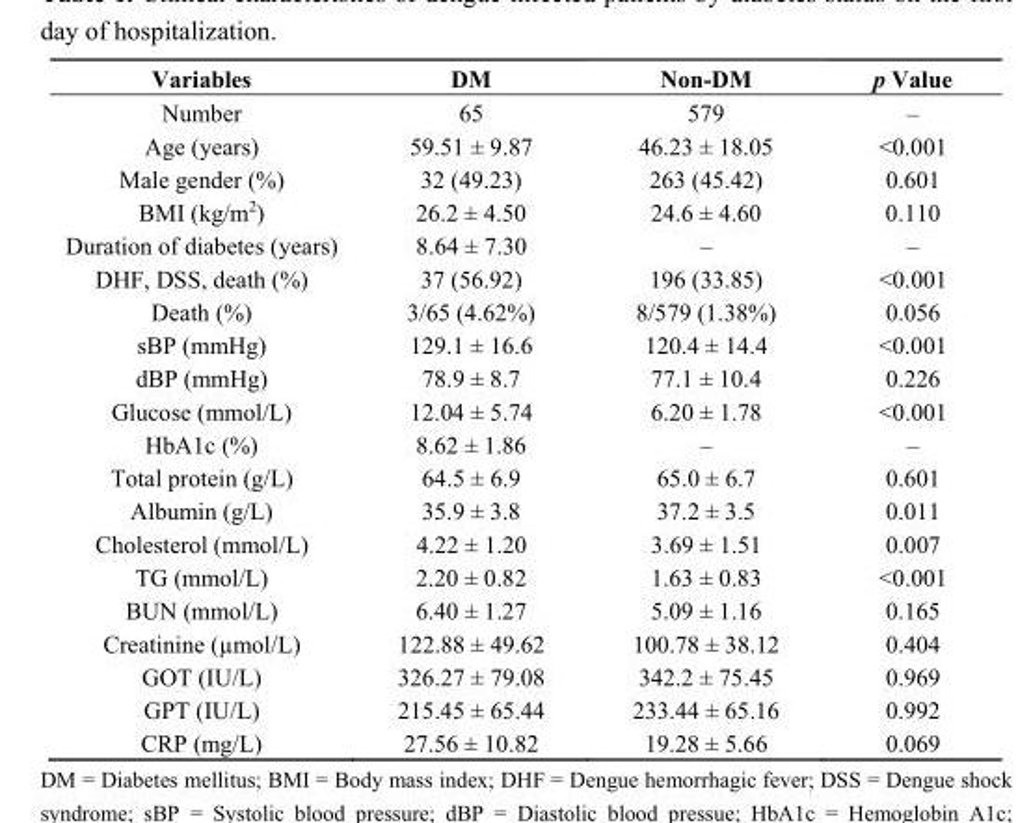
<table><thead><tr><td>Variables</td><td>DM</td><td>Non-DM</td><td>p Value</td></tr></thead><tbody><tr><td>Number</td><td>65</td><td>579</td><td>–</td></tr><tr><td>Age (years)</td><td>59.51 ± 9.87</td><td>46.23 ± 18.05</td><td>&lt;0.001</td></tr><tr><td>Male gender (%)</td><td>32 (49.23)</td><td>263 (45.42)</td><td>0.601</td></tr><tr><td>BMI (kg/m<sup>2</sup>)</td><td>26.2 ± 4.50</td><td>24.6 ± 4.60</td><td>0.110</td></tr><tr><td>Duration of diabetes (years)</td><td>8.64 ± 7.30</td><td>–</td><td>–</td></tr><tr><td>DHF, DSS, death (%)</td><td>37 (56.92)</td><td>196 (33.85)</td><td>&lt;0.001</td></tr><tr><td>Death (%)</td><td>3/65 (4.62%)</td><td>8/579 (1.38%)</td><td>0.056</td></tr><tr><td>sBP (mmHg)</td><td>129.1 ± 16.6</td><td>120.4 ± 14.4</td><td>&lt;0.001</td></tr><tr><td>dBP (mmHg)</td><td>78.9 ± 8.7</td><td>77.1 ± 10.4</td><td>0.226</td></tr><tr><td>Glucose (mmol/L)</td><td>12.04 ± 5.74</td><td>6.20 ± 1.78</td><td>&lt;0.001</td></tr><tr><td>HbA1c (%)</td><td>8.62 ± 1.86</td><td>–</td><td>–</td></tr><tr><td>Total protein (g/L)</td><td>64.5 ± 6.9</td><td>65.0 ± 6.7</td><td>0.601</td></tr><tr><td>Albumin (g/L)</td><td>35.9 ± 3.8</td><td>37.2 ± 3.5</td><td>0.011</td></tr><tr><td>Cholesterol (mmol/L)</td><td>4.22 ± 1.20</td><td>3.69 ± 1.51</td><td>0.007</td></tr><tr><td>TG (mmol/L)</td><td>2.20 ± 0.82</td><td>1.63 ± 0.83</td><td>&lt;0.001</td></tr><tr><td>BUN (mmol/L)</td><td>6.40 ± 1.27</td><td>5.09 ± 1.16</td><td>0.165</td></tr><tr><td>Creatinine (µmol/L)</td><td>122.88 ± 49.62</td><td>100.78 ± 38.12</td><td>0.404</td></tr><tr><td>GOT (IU/L)</td><td>326.27 ± 79.08</td><td>342.2 ± 75.45</td><td>0.969</td></tr><tr><td>GPT (IU/L)</td><td>215.45 ± 65.44</td><td>233.44 ± 65.16</td><td>0.992</td></tr><tr><td>CRP (mg/L)</td><td>27.56 ± 10.82</td><td>19.28 ± 5.66</td><td>0.069</td></tr></tbody></table>